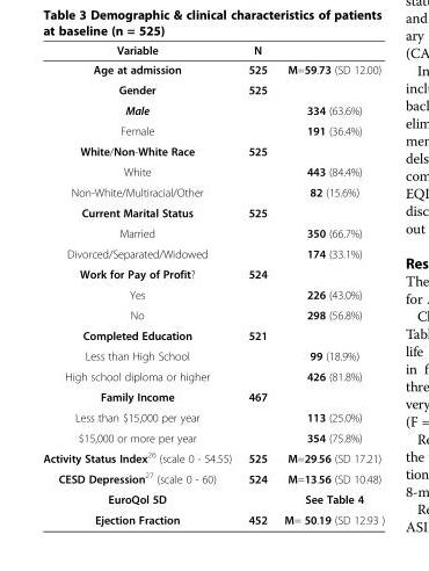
<table><thead><tr><td>Variable</td><td>N</td><td></td></tr></thead><tbody><tr><td>Age at admission</td><td>525</td><td>M=59.73 (SD 12.00)</td></tr><tr><td>Gender</td><td>525</td><td></td></tr><tr><td>Male</td><td></td><td>334 (63.6%)</td></tr><tr><td>Female</td><td></td><td>191 (36.4%)</td></tr><tr><td>White/Non-White Race</td><td>525</td><td></td></tr><tr><td>White</td><td></td><td>443 (84.4%)</td></tr><tr><td>Non-White/Multiracial/Other</td><td></td><td>82 (15.6%)</td></tr><tr><td>Current Marital Status</td><td>525</td><td></td></tr><tr><td>Married</td><td></td><td>350 (66.7%)</td></tr><tr><td>Divorced/Separated/Widowed</td><td></td><td>174 (33.1%)</td></tr><tr><td>Work for Pay of Profit?</td><td>524</td><td></td></tr><tr><td>Yes</td><td></td><td>226 (43.0%)</td></tr><tr><td>No</td><td></td><td>298 (56.8%)</td></tr><tr><td>Completed Education</td><td>521</td><td></td></tr><tr><td>Less than High School</td><td></td><td>99 (18.9%)</td></tr><tr><td>High school diploma or higher</td><td></td><td>426 (81.8%)</td></tr><tr><td>Family Income</td><td>467</td><td></td></tr><tr><td>Less than $15,000 per year</td><td></td><td>113 (25.0%)</td></tr><tr><td>$15,000 or more per year</td><td></td><td>354 (75.8%)</td></tr><tr><td>Activity Status Index<sup>26</sup> (scale 0 - 54.55)</td><td>525</td><td>M=29.56 (SD 17.21)</td></tr><tr><td>CESD Depression<sup>27</sup> (scale 0 - 60)</td><td>524</td><td>M=13.56 (SD 10.48)</td></tr><tr><td>EuroQol 5D</td><td></td><td>See Table 4</td></tr><tr><td>Ejection Fraction</td><td>452</td><td>M= 50.19 (SD 12.93 )</td></tr></tbody></table>